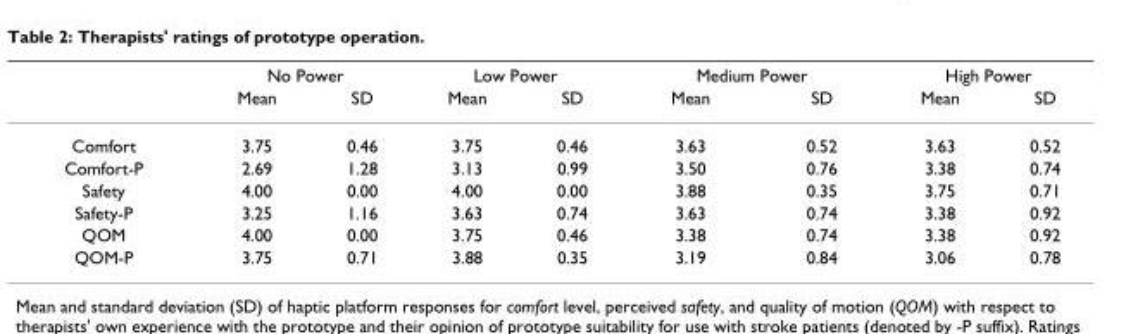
<table><thead><tr><td rowspan="2"></td><td colspan="2">No Power</td><td colspan="2">Low Power</td><td colspan="2">Medium Power</td><td colspan="2">High Power</td></tr><tr><td>Mean</td><td>SD</td><td>Mean</td><td>SD</td><td>Mean</td><td>SD</td><td>Mean</td><td>SD</td></tr></thead><tbody><tr><td>Comfort</td><td>3.75</td><td>0.46</td><td>3.75</td><td>0.46</td><td>3.63</td><td>0.52</td><td>3.63</td><td>0.52</td></tr><tr><td>Comfort-P</td><td>2.69</td><td>1.28</td><td>3.13</td><td>0.99</td><td>3.50</td><td>0.76</td><td>3.38</td><td>0.74</td></tr><tr><td>Safety</td><td>4.00</td><td>0.00</td><td>4.00</td><td>0.00</td><td>3.88</td><td>0.35</td><td>3.75</td><td>0.71</td></tr><tr><td>Safety-P</td><td>3.25</td><td>1.16</td><td>3.63</td><td>0.74</td><td>3.63</td><td>0.74</td><td>3.38</td><td>0.92</td></tr><tr><td>QOM</td><td>4.00</td><td>0.00</td><td>3.75</td><td>0.46</td><td>3.38</td><td>0.74</td><td>3.38</td><td>0.92</td></tr><tr><td>QOM-P</td><td>3.75</td><td>0.71</td><td>3.88</td><td>0.35</td><td>3.19</td><td>0.84</td><td>3.06</td><td>0.78</td></tr></tbody></table>